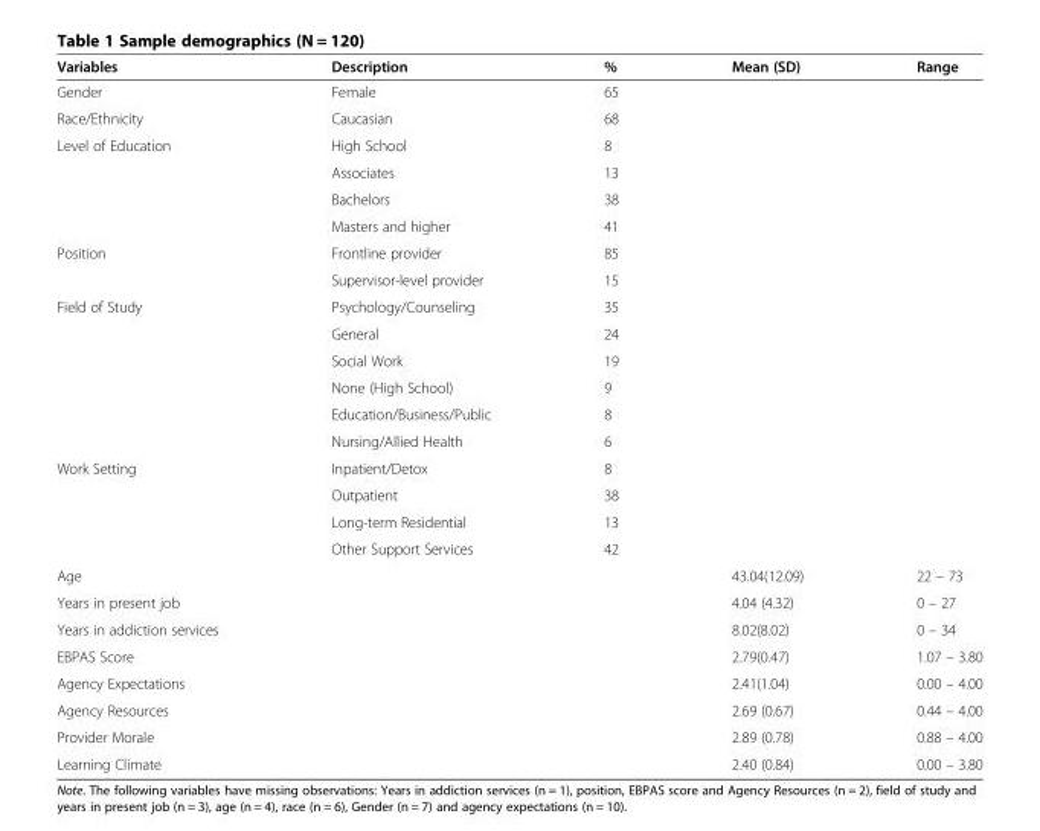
<table><thead><tr><td>Variables</td><td>Description</td><td>%</td><td>Mean (SD)</td><td>Range</td></tr></thead><tbody><tr><td>Gender</td><td>Female</td><td>65</td><td></td><td></td></tr><tr><td>Race/Ethnicity</td><td>Caucasian</td><td>68</td><td></td><td></td></tr><tr><td rowspan="4">Level of Education</td><td>High School</td><td>8</td><td></td><td></td></tr><tr><td>Associates</td><td>13</td><td></td><td></td></tr><tr><td>Bachelors</td><td>38</td><td></td><td></td></tr><tr><td>Masters and higher</td><td>41</td><td></td><td></td></tr><tr><td rowspan="2">Position</td><td>Frontline provider</td><td>85</td><td></td><td></td></tr><tr><td>Supervisor-level provider</td><td>15</td><td></td><td></td></tr><tr><td rowspan="6">Field of Study</td><td>Psychology/Counseling</td><td>35</td><td></td><td></td></tr><tr><td>General</td><td>24</td><td></td><td></td></tr><tr><td>Social Work</td><td>19</td><td></td><td></td></tr><tr><td>None (High School)</td><td>9</td><td></td><td></td></tr><tr><td>Education/Business/Public</td><td>8</td><td></td><td></td></tr><tr><td>Nursing/Allied Health</td><td>6</td><td></td><td></td></tr><tr><td rowspan="4">Work Setting</td><td>Inpatient/Detox</td><td>8</td><td></td><td></td></tr><tr><td>Outpatient</td><td>38</td><td></td><td></td></tr><tr><td>Long-term Residential</td><td>13</td><td></td><td></td></tr><tr><td>Other Support Services</td><td>42</td><td></td><td></td></tr><tr><td>Age</td><td></td><td></td><td>43.04(12.09)</td><td>22 – 73</td></tr><tr><td>Years in present job</td><td></td><td></td><td>4.04 (4.32)</td><td>0 – 27</td></tr><tr><td>Years in addiction services</td><td></td><td></td><td>8.02(8.02)</td><td>0 – 34</td></tr><tr><td>EBPAS Score</td><td></td><td></td><td>2.79(0.47)</td><td>1.07 – 3.80</td></tr><tr><td>Agency Expectations</td><td></td><td></td><td>2.41(1.04)</td><td>0.00 – 4.00</td></tr><tr><td>Agency Resources</td><td></td><td></td><td>2.69 (0.67)</td><td>0.44 – 4.00</td></tr><tr><td>Provider Morale</td><td></td><td></td><td>2.89 (0.78)</td><td>0.88 – 4.00</td></tr><tr><td>Learning Climate</td><td></td><td></td><td>2.40 (0.84)</td><td>0.00 – 3.80</td></tr></tbody></table>